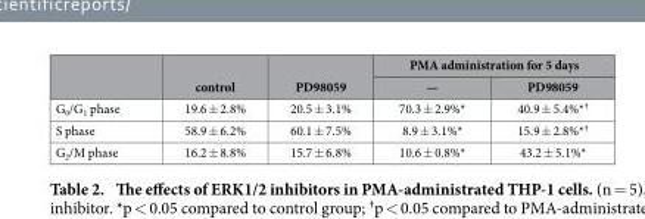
<table><thead><tr><td rowspan="2"></td><td rowspan="2">control</td><td rowspan="2">PD98059</td><td colspan="2">PMA administration for 5 days</td></tr><tr><td>—</td><td>PD98059</td></tr></thead><tbody><tr><td>G<sub>0</sub>/G<sub>1</sub> phase</td><td>19.6 ± 2.8%</td><td>20.5 ± 3.1%</td><td>70.3 ± 2.9%*</td><td>40.9 ± 5.4%*<sup>†</sup></td></tr><tr><td>S phase</td><td>58.9 ± 6.2%</td><td>60.1 ± 7.5%</td><td>8.9 ± 3.1%*</td><td>15.9 ± 2.8%*<sup>†</sup></td></tr><tr><td>G<sub>2</sub>/M phase</td><td>16.2 ± 8.8%</td><td>15.7 ± 6.8%</td><td>10.6 ± 0.8%*</td><td>43.2 ± 5.1%*</td></tr></tbody></table>